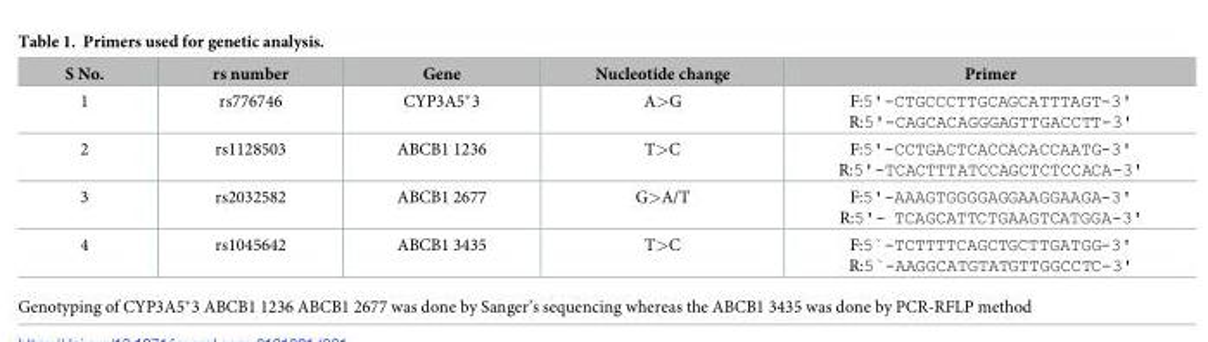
<table><thead><tr><td>S No.</td><td>rs number</td><td>Gene</td><td>Nucleotide change</td><td>Primer</td></tr></thead><tbody><tr><td>1</td><td>rs776746</td><td>CYP3A5*3</td><td>A&gt;G</td><td>F:5&#x27;-CTGCCCTTGCAGCATTTAGT-3&#x27; R:5&#x27;-CAGCACAGGGAGTTGACCTT-3&#x27;</td></tr><tr><td>2</td><td>rs1128503</td><td>ABCB1 1236</td><td>T&gt;C</td><td>F:5&#x27;-CCTGACTCACCACACCAATG-3&#x27; R:5&#x27;-TCACTTTATCCAGCTCTCCACA-3&#x27;</td></tr><tr><td>3</td><td>rs2032582</td><td>ABCB1 2677</td><td>G&gt;A/T</td><td>F:5&#x27;-AAAGTGGGGAGGAAGGAAGA-3&#x27; R:5&#x27;- TCAGCATTCTGAAGTCATGGA-3&#x27;</td></tr><tr><td>4</td><td>rs1045642</td><td>ABCB1 3435</td><td>T&gt;C</td><td>F:5`-TCTTTTCAGCTGCTTGATGG-3&#x27; R:5`-AAGGCATGTATGTTGGCCTC-3&#x27;</td></tr></tbody></table>